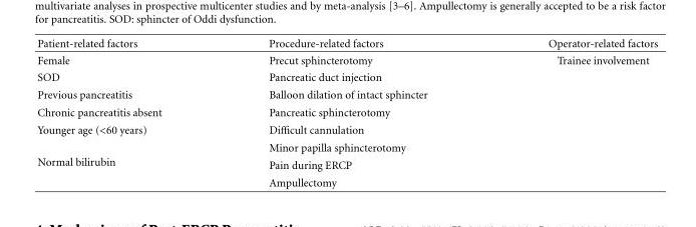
<table><thead><tr><td>Patient-related factors</td><td>Procedure-related factors</td><td>Operator-related factors</td></tr></thead><tbody><tr><td>Female</td><td>Precut sphincterotomy</td><td>Trainee involvement</td></tr><tr><td>SOD</td><td>Pancreatic duct injection</td><td></td></tr><tr><td>Previous pancreatitis</td><td>Balloon dilation of intact sphincter</td><td></td></tr><tr><td>Chronic pancreatitis absent</td><td>Pancreatic sphincterotomy</td><td></td></tr><tr><td>Younger age (&lt;60 years)</td><td>Difficult cannulation</td><td></td></tr><tr><td rowspan="3">Normal bilirubin</td><td>Minor papilla sphincterotomy</td><td></td></tr><tr><td>Pain during ERCP</td><td></td></tr><tr><td>Ampullectomy</td><td></td></tr></tbody></table>